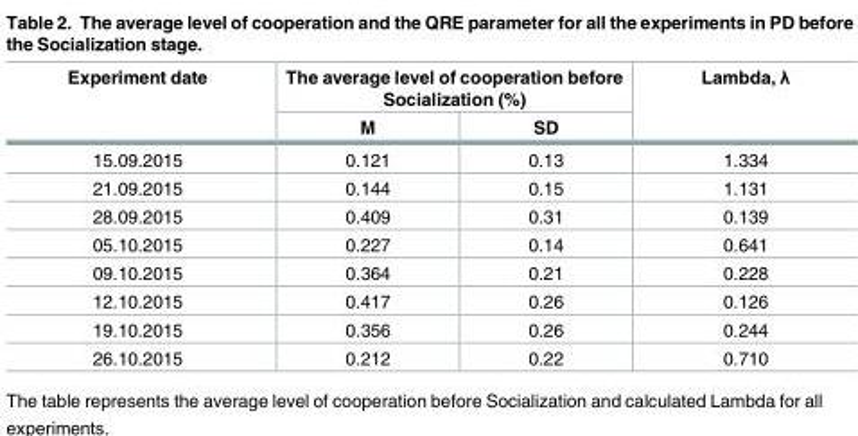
<table><thead><tr><td rowspan="2">Experiment date</td><td colspan="2">The average level of cooperation before Socialization (%)</td><td rowspan="2">Lambda, λ</td></tr><tr><td>M</td><td>SD</td></tr></thead><tbody><tr><td>15.09.2015</td><td>0.121</td><td>0.13</td><td>1.334</td></tr><tr><td>21.09.2015</td><td>0.144</td><td>0.15</td><td>1.131</td></tr><tr><td>28.09.2015</td><td>0.409</td><td>0.31</td><td>0.139</td></tr><tr><td>05.10.2015</td><td>0.227</td><td>0.14</td><td>0.641</td></tr><tr><td>09.10.2015</td><td>0.364</td><td>0.21</td><td>0.228</td></tr><tr><td>12.10.2015</td><td>0.417</td><td>0.26</td><td>0.126</td></tr><tr><td>19.10.2015</td><td>0.356</td><td>0.26</td><td>0.244</td></tr><tr><td>26.10.2015</td><td>0.212</td><td>0.22</td><td>0.710</td></tr></tbody></table>